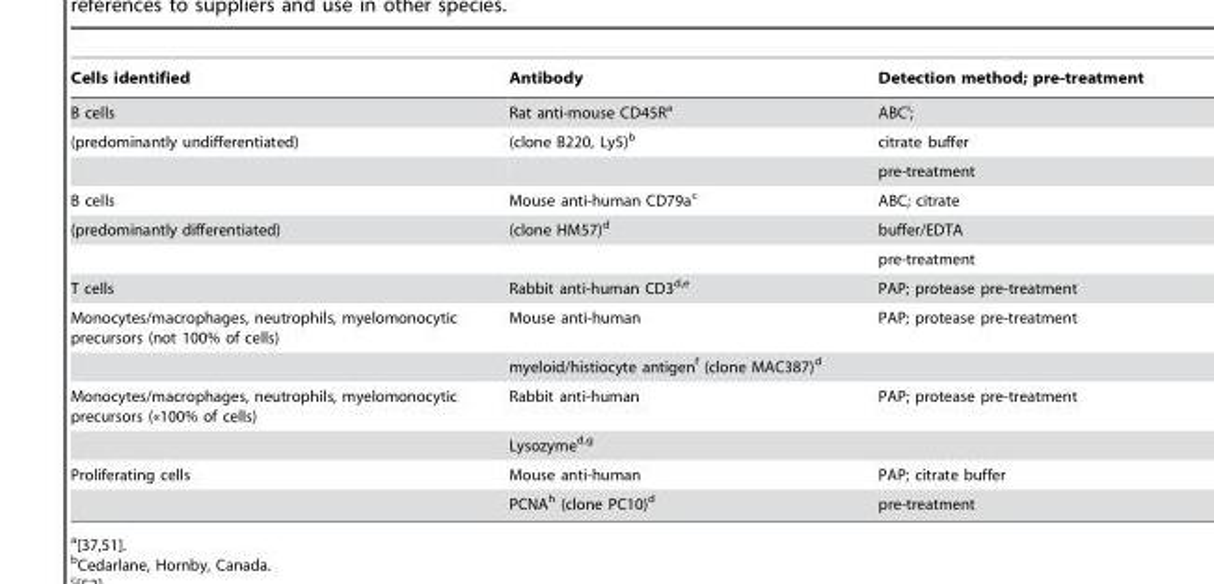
<table><thead><tr><td>Cells identified</td><td>Antibody</td><td>Detection method; pre-treatment</td></tr></thead><tbody><tr><td>B cells</td><td>Rat anti-mouse CD45R<sup>a</sup></td><td>ABC<sup>i</sup>;</td></tr><tr><td rowspan="2">(predominantly undifferentiated)</td><td>(clone B220, Ly5)<sup>b</sup></td><td>citrate buffer</td></tr><tr><td></td><td>pre-treatment</td></tr><tr><td>B cells</td><td>Mouse anti-human CD79a<sup>c</sup></td><td>ABC; citrate</td></tr><tr><td rowspan="2">(predominantly differentiated)</td><td>(clone HM57)<sup>d</sup></td><td>buffer/EDTA</td></tr><tr><td></td><td>pre-treatment</td></tr><tr><td>T cells</td><td>Rabbit anti-human CD3<sup>d,</sup>e</td><td>PAP; protease pre-treatment</td></tr><tr><td rowspan="2">Monocytes/macrophages, neutrophils, myelomonocytic precursors (not 100% of cells)</td><td>Mouse anti-human</td><td>PAP; protease pre-treatment</td></tr><tr><td>myeloid/histiocyte antigen<sup>f</sup> (clone MAC387)<sup>d</sup></td><td></td></tr><tr><td rowspan="2">Monocytes/macrophages, neutrophils, myelomonocytic precursors («100% of cells)</td><td>Rabbit anti-human</td><td>PAP; protease pre-treatment</td></tr><tr><td>Lysozyme<sup>d,</sup>g</td><td></td></tr><tr><td rowspan="2">Proliferating cells</td><td>Mouse anti-human</td><td>PAP; citrate buffer</td></tr><tr><td>PCNA<sup>h</sup> (clone PC10)<sup>d</sup></td><td>pre-treatment</td></tr></tbody></table>